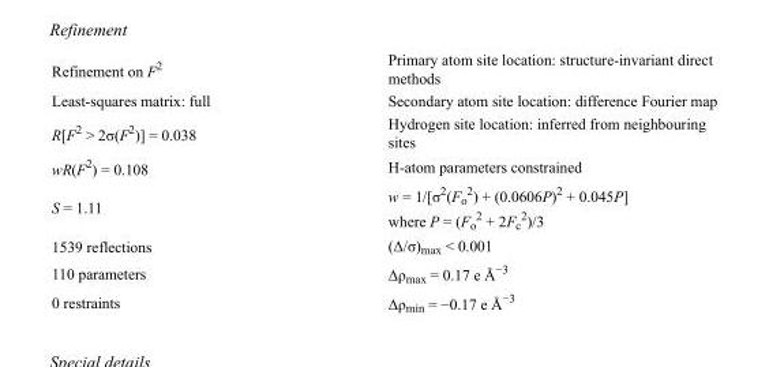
<table><tbody><tr><td>Refinement on F<sup>2</sup></td><td>Primary atom site location: structure-invariant direct methods</td></tr><tr><td>Least-squares matrix: full</td><td>Secondary atom site location: difference Fourier map</td></tr><tr><td>R[F<sup>2</sup> &gt; 2σ(F<sup>2</sup>)] = 0.038</td><td>Hydrogen site location: inferred from neighbouring sites</td></tr><tr><td>wR(F<sup>2</sup>) = 0.108</td><td>H-atom parameters constrained</td></tr><tr><td>S = 1.11</td><td>w = 1/[σ<sup>2</sup>(F<sub>o</sub> <sup>2</sup>) + (0.0606P)<sup>2</sup> + 0.045P] where P = (F<sub>o</sub> <sup>2</sup> + 2F<sub>c</sub> <sup>2</sup>)/3</td></tr><tr><td>1539 reflections</td><td>(Δ/σ)<sub>max</sub> &lt; 0.001</td></tr><tr><td>110 parameters</td><td>Δρ<sub>max</sub> = 0.17 e Å<sup>−3</sup></td></tr><tr><td>0 restraints</td><td>Δρ<sub>min</sub> = −0.17 e Å<sup>−3</sup></td></tr></tbody></table>